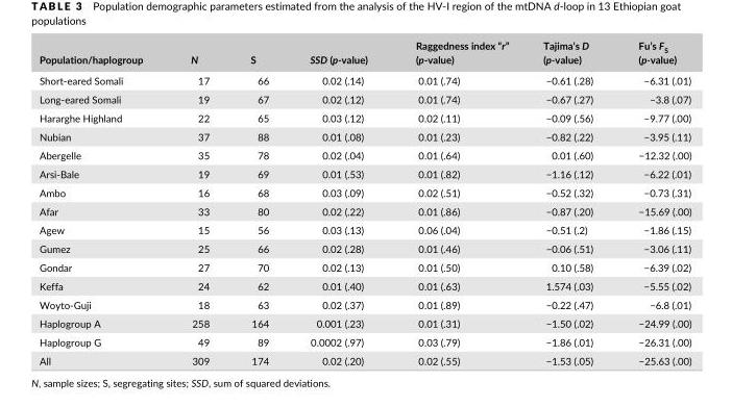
<table><thead><tr><td>Population/haplogroup</td><td>N</td><td>S</td><td>SSD (p-value)</td><td>Raggedness index “r” (p- value)</td><td>Tajima’s D (p-value)</td><td>Fu’s F<sub>S</sub> (p-value)</td></tr></thead><tbody><tr><td>Short- eared Somali</td><td>17</td><td>66</td><td>0.02 (.14)</td><td>0.01 (.74)</td><td>−0.61 (.28)</td><td>−6.31 (.01)</td></tr><tr><td>Long- eared Somali</td><td>19</td><td>67</td><td>0.02 (.12)</td><td>0.01 (.74)</td><td>−0.67 (.27)</td><td>−3.8 (.07)</td></tr><tr><td>Hararghe Highland</td><td>22</td><td>65</td><td>0.03 (.12)</td><td>0.02 (.11)</td><td>−0.09 (.56)</td><td>−9.77 (.00)</td></tr><tr><td>Nubian</td><td>37</td><td>88</td><td>0.01 (.08)</td><td>0.01 (.23)</td><td>−0.82 (.22)</td><td>−3.95 (.11)</td></tr><tr><td>Abergelle</td><td>35</td><td>78</td><td>0.02 (.04)</td><td>0.01 (.64)</td><td>0.01 (.60)</td><td>−12.32 (.00)</td></tr><tr><td>Arsi- Bale</td><td>19</td><td>69</td><td>0.01 (.53)</td><td>0.01 (.82)</td><td>−1.16 (.12)</td><td>−6.22 (.01)</td></tr><tr><td>Ambo</td><td>16</td><td>68</td><td>0.03 (.09)</td><td>0.02 (.51)</td><td>−0.52 (.32)</td><td>−0.73 (.31)</td></tr><tr><td>Afar</td><td>33</td><td>80</td><td>0.02 (.22)</td><td>0.01 (.86)</td><td>−0.87 (.20)</td><td>−15.69 (.00)</td></tr><tr><td>Agew</td><td>15</td><td>56</td><td>0.03 (.13)</td><td>0.06 (.04)</td><td>−0.51 (.2)</td><td>−1.86 (.15)</td></tr><tr><td>Gumez</td><td>25</td><td>66</td><td>0.02 (.28)</td><td>0.01 (.46)</td><td>−0.06 (.51)</td><td>−3.06 (.11)</td></tr><tr><td>Gondar</td><td>27</td><td>70</td><td>0.02 (.13)</td><td>0.01 (.50)</td><td>0.10 (.58)</td><td>−6.39 (.02)</td></tr><tr><td>Keffa</td><td>24</td><td>62</td><td>0.01 (.40)</td><td>0.01 (.63)</td><td>1.574 (.03)</td><td>−5.55 (.02)</td></tr><tr><td>Woyto- Guji</td><td>18</td><td>63</td><td>0.02 (.37)</td><td>0.01 (.89)</td><td>−0.22 (.47)</td><td>−6.8 (.01)</td></tr><tr><td>Haplogroup A</td><td>258</td><td>164</td><td>0.001 (.23)</td><td>0.01 (.31)</td><td>−1.50 (.02)</td><td>−24.99 (.00)</td></tr><tr><td>Haplogroup G</td><td>49</td><td>89</td><td>0.0002 (.97)</td><td>0.03 (.79)</td><td>−1.86 (.01)</td><td>−26.31 (.00)</td></tr><tr><td>All</td><td>309</td><td>174</td><td>0.02 (.20)</td><td>0.02 (.55)</td><td>−1.53 (.05)</td><td>−25.63 (.00)</td></tr></tbody></table>